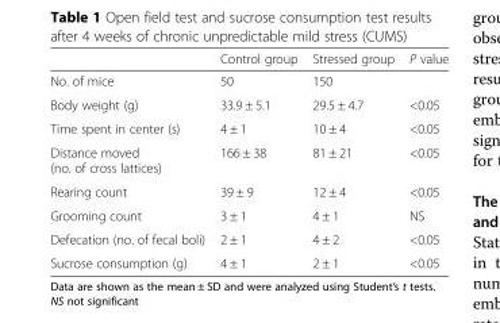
<table><thead><tr><td></td><td>Control group</td><td>Stressed group</td><td>P value</td></tr></thead><tbody><tr><td>No. of mice</td><td>50</td><td>150</td><td></td></tr><tr><td>Body weight (g)</td><td>33.9 ± 5.1</td><td>29.5 ± 4.7</td><td>&lt;0.05</td></tr><tr><td>Time spent in center (s)</td><td>4 ± 1</td><td>10 ± 4</td><td>&lt;0.05</td></tr><tr><td>Distance moved (no. of cross lattices)</td><td>166 ± 38</td><td>81 ± 21</td><td>&lt;0.05</td></tr><tr><td>Rearing count</td><td>39 ± 9</td><td>12 ± 4</td><td>&lt;0.05</td></tr><tr><td>Grooming count</td><td>3 ± 1</td><td>4 ± 1</td><td>NS</td></tr><tr><td>Defecation (no. of fecal boli)</td><td>2 ± 1</td><td>4 ± 2</td><td>&lt;0.05</td></tr><tr><td>Sucrose consumption (g)</td><td>4 ± 1</td><td>2 ± 1</td><td>&lt;0.05</td></tr></tbody></table>